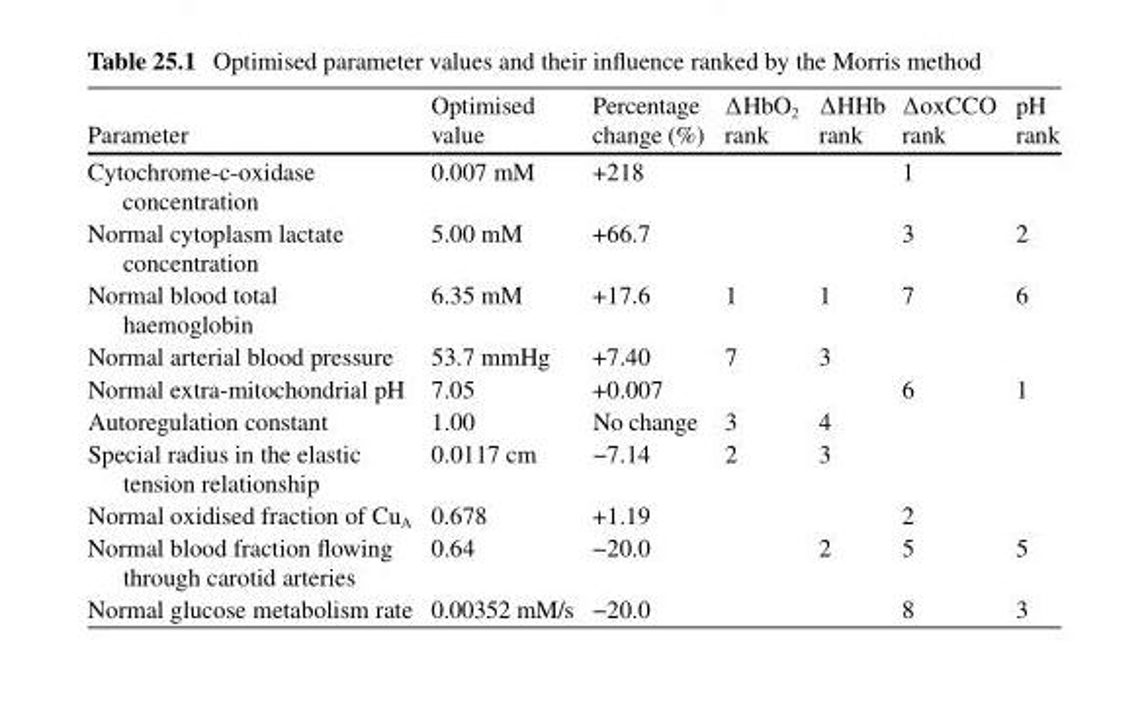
<table><thead><tr><td>Parameter</td><td>Optimised value</td><td>Percentage change (%)</td><td>∆HbO<sub>2</sub> rank</td><td>∆HHb rank</td><td>∆oxCCO rank</td><td>pH rank</td></tr></thead><tbody><tr><td>Cytochrome-c- oxidase concentration</td><td>0.007 mM</td><td>+218</td><td></td><td></td><td>1</td><td></td></tr><tr><td>Normal cytoplasm lactate concentration</td><td>5.00 mM</td><td>+66.7</td><td></td><td></td><td>3</td><td>2</td></tr><tr><td>Normal blood total haemoglobin</td><td>6.35 mM</td><td>+17.6</td><td>1</td><td>1</td><td>7</td><td>6</td></tr><tr><td>Normal arterial blood pressure</td><td>53.7 mmHg</td><td>+7.40</td><td>7</td><td>3</td><td></td><td></td></tr><tr><td>Normal extra- mitochondrial pH</td><td>7.05</td><td>+0.007</td><td></td><td></td><td>6</td><td>1</td></tr><tr><td>Autoregulation constant</td><td>1.00</td><td>No change</td><td>3</td><td>4</td><td></td><td></td></tr><tr><td>Special radius in the elastic tension relationship</td><td>0.0117 cm</td><td>−7.14</td><td>2</td><td>3</td><td></td><td></td></tr><tr><td>Normal oxidised fraction of Cu<sub>A</sub></td><td>0.678</td><td>+1.19</td><td></td><td></td><td>2</td><td></td></tr><tr><td>Normal blood fraction flowing through carotid arteries</td><td>0.64</td><td>−20.0</td><td></td><td>2</td><td>5</td><td>5</td></tr><tr><td>Normal glucose metabolism rate</td><td>0.00352 mM/s</td><td>−20.0</td><td></td><td></td><td>8</td><td>3</td></tr></tbody></table>